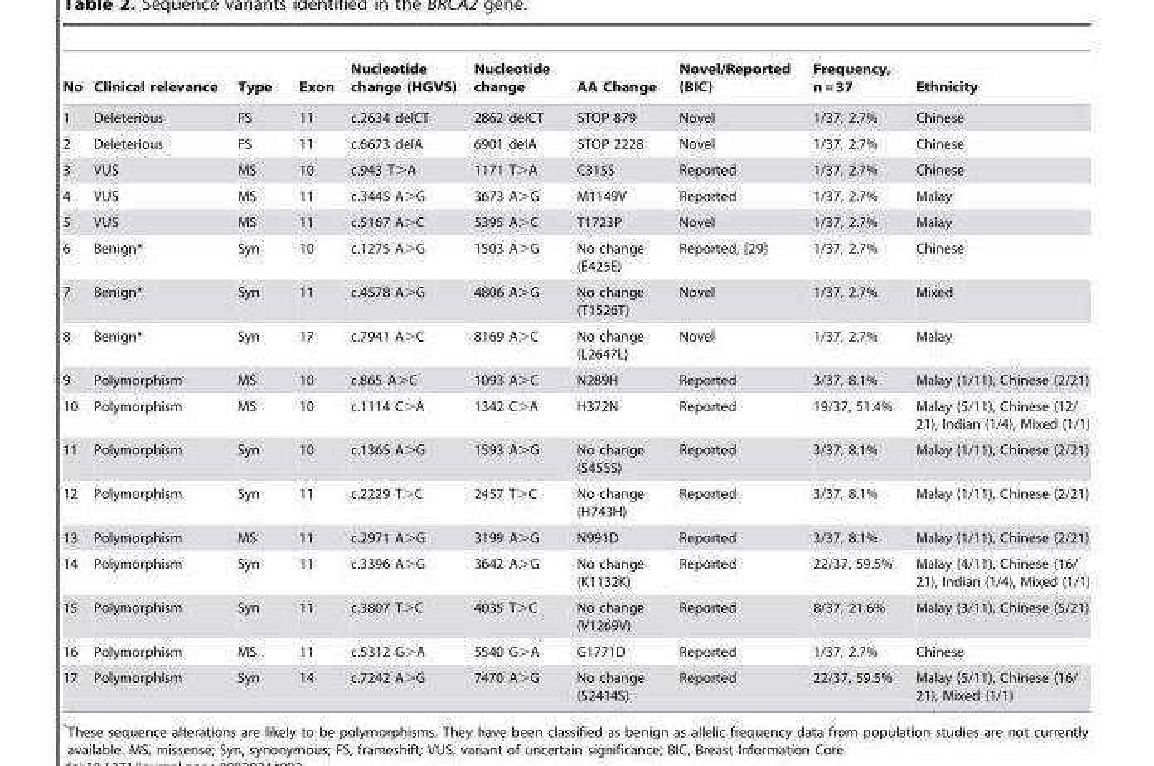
<table><thead><tr><td>No</td><td>Clinical relevance</td><td>Type</td><td>Exon</td><td>Nucleotide change (HGVS)</td><td>Nucleotide change</td><td>AA Change</td><td>Novel/Reported (BIC)</td><td>Frequency, n = 37</td><td>Ethnicity</td></tr></thead><tbody><tr><td>1</td><td>Deleterious</td><td>FS</td><td>11</td><td>c.2634 delCT</td><td>2862 delCT</td><td>STOP 879</td><td>Novel</td><td>1/37, 2.7%</td><td>Chinese</td></tr><tr><td>2</td><td>Deleterious</td><td>FS</td><td>11</td><td>c.6673 delA</td><td>6901 delA</td><td>STOP 2228</td><td>Novel</td><td>1/37, 2.7%</td><td>Chinese</td></tr><tr><td>3</td><td>VUS</td><td>MS</td><td>10</td><td>c.943 T&gt;A</td><td>1171 T&gt;A</td><td>C315S</td><td>Reported</td><td>1/37, 2.7%</td><td>Chinese</td></tr><tr><td>4</td><td>VUS</td><td>MS</td><td>11</td><td>c.3445 A&gt;G</td><td>3673 A&gt;G</td><td>M1149V</td><td>Reported</td><td>1/37, 2.7%</td><td>Malay</td></tr><tr><td>5</td><td>VUS</td><td>MS</td><td>11</td><td>c.5167 A&gt;C</td><td>5395 A&gt;C</td><td>T1723P</td><td>Novel</td><td>1/37, 2.7%</td><td>Malay</td></tr><tr><td>6</td><td>Benign*</td><td>Syn</td><td>10</td><td>c.1275 A&gt;G</td><td>1503 A&gt;G</td><td>No change (E425E)</td><td>Reported, [29]</td><td>1/37, 2.7%</td><td>Chinese</td></tr><tr><td>7</td><td>Benign*</td><td>Syn</td><td>11</td><td>c.4578 A&gt;G</td><td>4806 A&gt;G</td><td>No change (T1526T)</td><td>Novel</td><td>1/37, 2.7%</td><td>Mixed</td></tr><tr><td>8</td><td>Benign*</td><td>Syn</td><td>17</td><td>c.7941 A&gt;C</td><td>8169 A&gt;C</td><td>No change (L2647L)</td><td>Novel</td><td>1/37, 2.7%</td><td>Malay</td></tr><tr><td>9</td><td>Polymorphism</td><td>MS</td><td>10</td><td>c.865 A&gt;C</td><td>1093 A&gt;C</td><td>N289H</td><td>Reported</td><td>3/37, 8.1%</td><td>Malay (1/11), Chinese (2/21)</td></tr><tr><td>10</td><td>Polymorphism</td><td>MS</td><td>10</td><td>c.1114 C&gt;A</td><td>1342 C&gt;A</td><td>H372N</td><td>Reported</td><td>19/37, 51.4%</td><td>Malay (5/11), Chinese (12/ 21), Indian (1/4), Mixed (1/1)</td></tr><tr><td>11</td><td>Polymorphism</td><td>Syn</td><td>10</td><td>c.1365 A&gt;G</td><td>1593 A&gt;G</td><td>No change (S455S)</td><td>Reported</td><td>3/37, 8.1%</td><td>Malay (1/11), Chinese (2/21)</td></tr><tr><td>12</td><td>Polymorphism</td><td>Syn</td><td>11</td><td>c.2229 T&gt;C</td><td>2457 T&gt;C</td><td>No change (H743H)</td><td>Reported</td><td>3/37, 8.1%</td><td>Malay (1/11), Chinese (2/21)</td></tr><tr><td>13</td><td>Polymorphism</td><td>MS</td><td>11</td><td>c.2971 A&gt;G</td><td>3199 A&gt;G</td><td>N991D</td><td>Reported</td><td>3/37, 8.1%</td><td>Malay (1/11), Chinese (2/21)</td></tr><tr><td>14</td><td>Polymorphism</td><td>Syn</td><td>11</td><td>c.3396 A&gt;G</td><td>3642 A&gt;G</td><td>No change (K1132K)</td><td>Reported</td><td>22/37, 59.5%</td><td>Malay (4/11), Chinese (16/ 21), Indian (1/4), Mixed (1/1)</td></tr><tr><td>15</td><td>Polymorphism</td><td>Syn</td><td>11</td><td>c.3807 T&gt;C</td><td>4035 T&gt;C</td><td>No change (V1269V)</td><td>Reported</td><td>8/37, 21.6%</td><td>Malay (3/11), Chinese (5/21)</td></tr><tr><td>16</td><td>Polymorphism</td><td>MS</td><td>11</td><td>c.5312 G&gt;A</td><td>5540 G&gt;A</td><td>G1771D</td><td>Reported</td><td>1/37, 2.7%</td><td>Chinese</td></tr><tr><td>17</td><td>Polymorphism</td><td>Syn</td><td>14</td><td>c.7242 A&gt;G</td><td>7470 A&gt;G</td><td>No change (S2414S)</td><td>Reported</td><td>22/37, 59.5%</td><td>Malay (5/11), Chinese (16/ 21), Mixed (1/1)</td></tr></tbody></table>